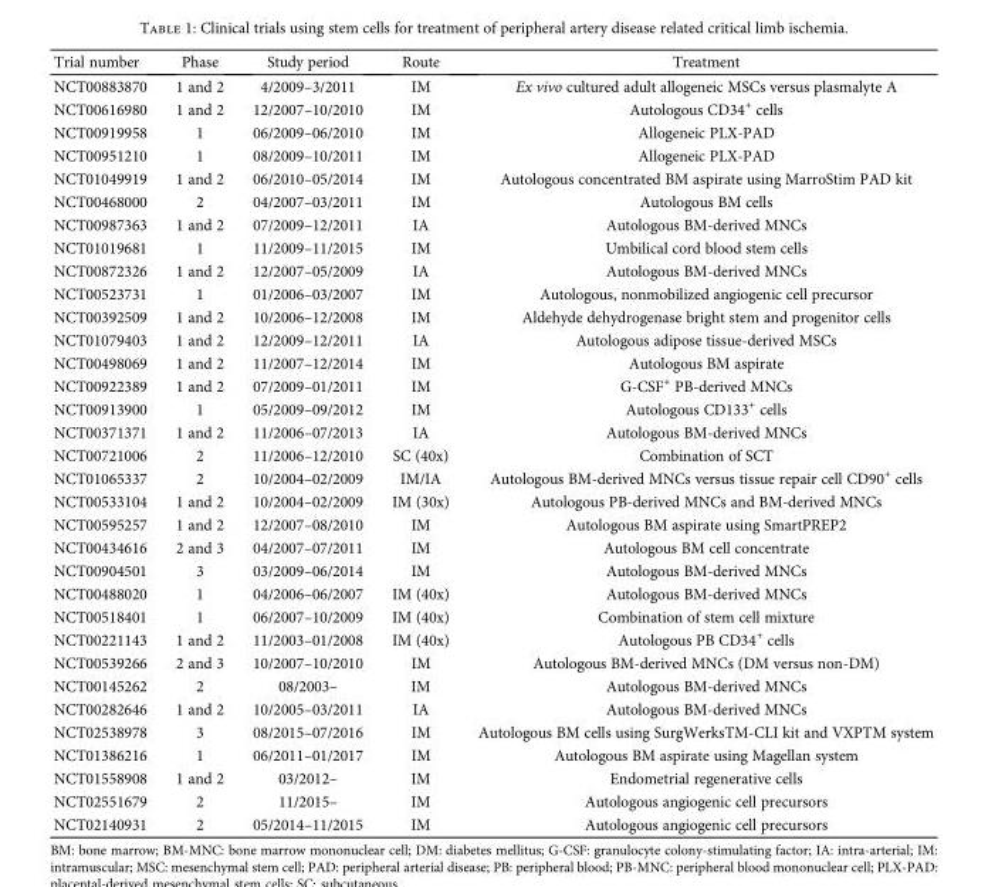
<table><thead><tr><td>Trial number</td><td>Phase</td><td>Study period</td><td>Route</td><td>Treatment</td></tr></thead><tbody><tr><td>NCT00883870</td><td>1 and 2</td><td>4/2009–3/2011</td><td>IM</td><td>Ex vivo cultured adult allogeneic MSCs versus plasmalyte A</td></tr><tr><td>NCT00616980</td><td>1 and 2</td><td>12/2007–10/2010</td><td>IM</td><td>Autologous CD34<sup>+</sup> cells</td></tr><tr><td>NCT00919958</td><td>1</td><td>06/2009–06/2010</td><td>IM</td><td>Allogeneic PLX-PAD</td></tr><tr><td>NCT00951210</td><td>1</td><td>08/2009–10/2011</td><td>IM</td><td>Allogeneic PLX-PAD</td></tr><tr><td>NCT01049919</td><td>1 and 2</td><td>06/2010–05/2014</td><td>IM</td><td>Autologous concentrated BM aspirate using MarroStim PAD kit</td></tr><tr><td>NCT00468000</td><td>2</td><td>04/2007–03/2011</td><td>IM</td><td>Autologous BM cells</td></tr><tr><td>NCT00987363</td><td>1 and 2</td><td>07/2009–12/2011</td><td>IA</td><td>Autologous BM-derived MNCs</td></tr><tr><td>NCT01019681</td><td>1</td><td>11/2009–11/2015</td><td>IM</td><td>Umbilical cord blood stem cells</td></tr><tr><td>NCT00872326</td><td>1 and 2</td><td>12/2007–05/2009</td><td>IA</td><td>Autologous BM-derived MNCs</td></tr><tr><td>NCT00523731</td><td>1</td><td>01/2006–03/2007</td><td>IM</td><td>Autologous, nonmobilized angiogenic cell precursor</td></tr><tr><td>NCT00392509</td><td>1 and 2</td><td>10/2006–12/2008</td><td>IM</td><td>Aldehyde dehydrogenase bright stem and progenitor cells</td></tr><tr><td>NCT01079403</td><td>1 and 2</td><td>12/2009–12/2011</td><td>IA</td><td>Autologous adipose tissue-derived MSCs</td></tr><tr><td>NCT00498069</td><td>1 and 2</td><td>11/2007–12/2014</td><td>IM</td><td>Autologous BM aspirate</td></tr><tr><td>NCT00922389</td><td>1 and 2</td><td>07/2009–01/2011</td><td>IM</td><td>G-CSF<sup>+</sup> PB-derived MNCs</td></tr><tr><td>NCT00913900</td><td>1</td><td>05/2009–09/2012</td><td>IM</td><td>Autologous CD133<sup>+</sup> cells</td></tr><tr><td>NCT00371371</td><td>1 and 2</td><td>11/2006–07/2013</td><td>IA</td><td>Autologous BM-derived MNCs</td></tr><tr><td>NCT00721006</td><td>2</td><td>11/2006–12/2010</td><td>SC (40x)</td><td>Combination of SCT</td></tr><tr><td>NCT01065337</td><td>2</td><td>10/2004–02/2009</td><td>IM/IA</td><td>Autologous BM-derived MNCs versus tissue repair cell CD90<sup>+</sup> cells</td></tr><tr><td>NCT00533104</td><td>1 and 2</td><td>10/2004–02/2009</td><td>IM (30x)</td><td>Autologous PB-derived MNCs and BM-derived MNCs</td></tr><tr><td>NCT00595257</td><td>1 and 2</td><td>12/2007–08/2010</td><td>IM</td><td>Autologous BM aspirate using SmartPREP2</td></tr><tr><td>NCT00434616</td><td>2 and 3</td><td>04/2007–07/2011</td><td>IM</td><td>Autologous BM cell concentrate</td></tr><tr><td>NCT00904501</td><td>3</td><td>03/2009–06/2014</td><td>IM</td><td>Autologous BM-derived MNCs</td></tr><tr><td>NCT00488020</td><td>1</td><td>04/2006–06/2007</td><td>IM (40x)</td><td>Autologous BM-derived MNCs</td></tr><tr><td>NCT00518401</td><td>1</td><td>06/2007–10/2009</td><td>IM (40x)</td><td>Combination of stem cell mixture</td></tr><tr><td>NCT00221143</td><td>1 and 2</td><td>11/2003–01/2008</td><td>IM (40x)</td><td>Autologous PB CD34<sup>+</sup> cells</td></tr><tr><td>NCT00539266</td><td>2 and 3</td><td>10/2007–10/2010</td><td>IM</td><td>Autologous BM-derived MNCs (DM versus non-DM)</td></tr><tr><td>NCT00145262</td><td>2</td><td>08/2003–</td><td>IM</td><td>Autologous BM-derived MNCs</td></tr><tr><td>NCT00282646</td><td>1 and 2</td><td>10/2005–03/2011</td><td>IA</td><td>Autologous BM-derived MNCs</td></tr><tr><td>NCT02538978</td><td>3</td><td>08/2015–07/2016</td><td>IM</td><td>Autologous BM cells using SurgWerksTM-CLI kit and VXPTM system</td></tr><tr><td>NCT01386216</td><td>1</td><td>06/2011–01/2017</td><td>IM</td><td>Autologous BM aspirate using Magellan system</td></tr><tr><td>NCT01558908</td><td>1 and 2</td><td>03/2012–</td><td>IM</td><td>Endometrial regenerative cells</td></tr><tr><td>NCT02551679</td><td>2</td><td>11/2015–</td><td>IM</td><td>Autologous angiogenic cell precursors</td></tr><tr><td>NCT02140931</td><td>2</td><td>05/2014–11/2015</td><td>IM</td><td>Autologous angiogenic cell precursors</td></tr></tbody></table>